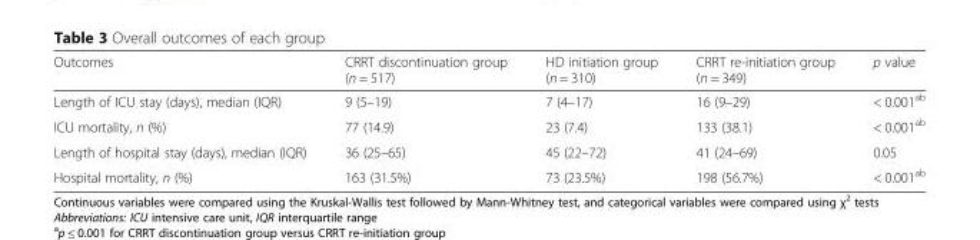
<table><thead><tr><td>Outcomes</td><td>CRRT discontinuation group (n = 517)</td><td>HD initiation group (n = 310)</td><td>CRRT re-initiation group (n = 349)</td><td>p value</td></tr></thead><tbody><tr><td>Length of ICU stay (days), median (IQR)</td><td>9 (5–19)</td><td>7 (4–17)</td><td>16 (9–29)</td><td>&lt; 0.001<sup>ab</sup></td></tr><tr><td>ICU mortality, n (%)</td><td>77 (14.9)</td><td>23 (7.4)</td><td>133 (38.1)</td><td>&lt; 0.001<sup>ab</sup></td></tr><tr><td>Length of hospital stay (days), median (IQR)</td><td>36 (25–65)</td><td>45 (22–72)</td><td>41 (24–69)</td><td>0.05</td></tr><tr><td>Hospital mortality, n (%)</td><td>163 (31.5%)</td><td>73 (23.5%)</td><td>198 (56.7%)</td><td>&lt; 0.001<sup>ab</sup></td></tr></tbody></table>